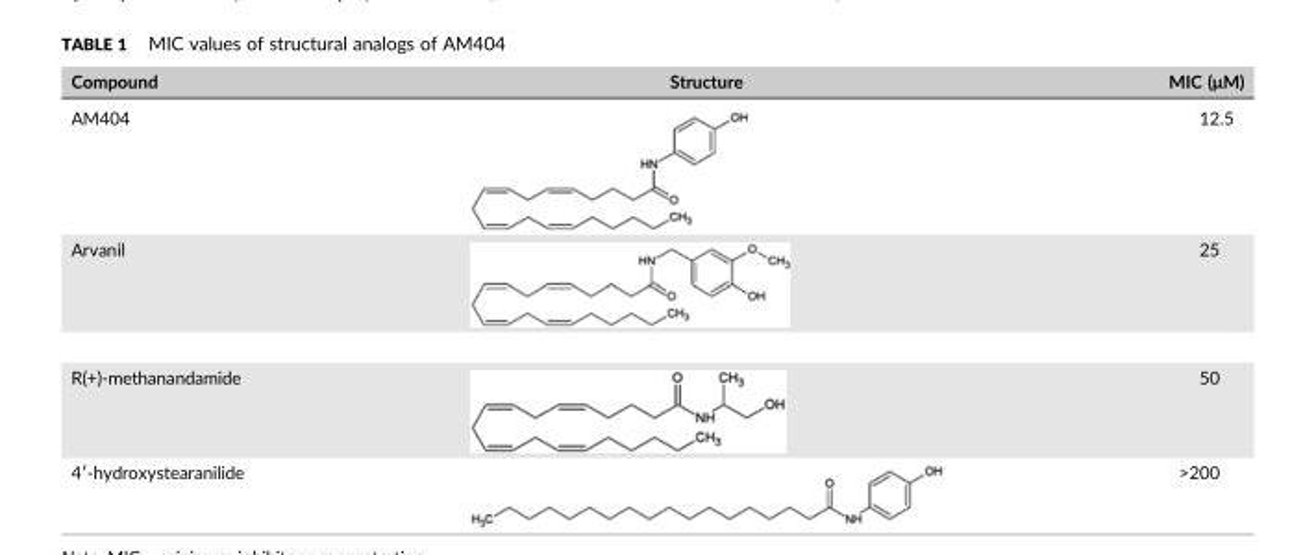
<table><thead><tr><td>Compound</td><td>Structure</td><td>MIC (μM)</td></tr></thead><tbody><tr><td>AM404</td><td></td><td>12.5</td></tr><tr><td>Arvanil</td><td></td><td>25</td></tr><tr><td>R(+)‐methanandamide</td><td></td><td>50</td></tr><tr><td>4′‐hydroxystearanilide</td><td></td><td>&gt;200</td></tr></tbody></table>